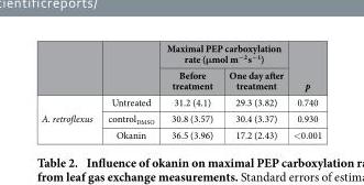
<table><thead><tr><td rowspan="2"></td><td rowspan="2"></td><td colspan="2">Maximal PEP carboxylation rate (μmol m<sup>−2</sup> s<sup>−1</sup>)</td><td rowspan="2">p</td></tr><tr><td>Before treatment</td><td>One day after treatment</td></tr></thead><tbody><tr><td rowspan="3">A. retroflexus</td><td>Untreated</td><td>31.2 (4.1)</td><td>29.3 (3.82)</td><td>0.740</td></tr><tr><td>control<sub>DMSO</sub></td><td>30.8 (3.57)</td><td>30.4 (3.37)</td><td>0.930</td></tr><tr><td>Okanin</td><td>36.5 (3.96)</td><td>17.2 (2.43)</td><td>&lt;0.001</td></tr></tbody></table>